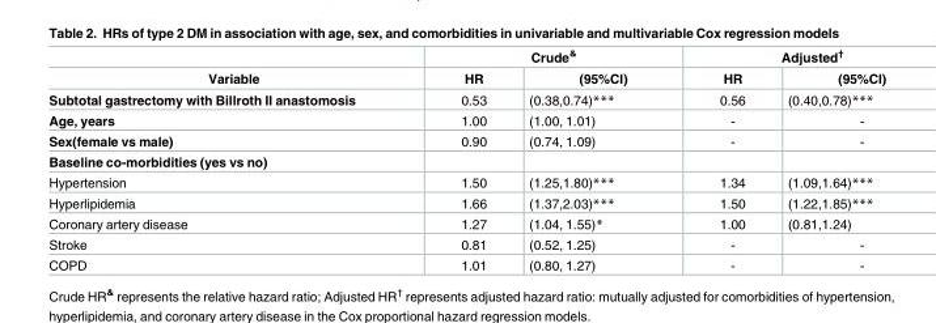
<table><thead><tr><td rowspan="2">Variable</td><td colspan="2">Crude<sup>&amp;</sup></td><td colspan="2">Adjusted<sup>†</sup></td></tr><tr><td>HR</td><td>(95%CI)</td><td>HR</td><td>(95%CI)</td></tr></thead><tbody><tr><td>Subtotal gastrectomy with Billroth II anastomosis</td><td>0.53</td><td>(0.38,0.74)***</td><td>0.56</td><td>(0.40,0.78)***</td></tr><tr><td>Age, years</td><td>1.00</td><td>(1.00, 1.01)</td><td>-</td><td>-</td></tr><tr><td>Sex(female vs male)</td><td>0.90</td><td>(0.74, 1.09)</td><td>-</td><td>-</td></tr><tr><td colspan="5">Baseline co-morbidities (yes vs no)</td></tr><tr><td>Hypertension</td><td>1.50</td><td>(1.25,1.80)***</td><td>1.34</td><td>(1.09,1.64)***</td></tr><tr><td>Hyperlipidemia</td><td>1.66</td><td>(1.37,2.03)***</td><td>1.50</td><td>(1.22,1.85)***</td></tr><tr><td>Coronary artery disease</td><td>1.27</td><td>(1.04, 1.55)*</td><td>1.00</td><td>(0.81,1.24)</td></tr><tr><td>Stroke</td><td>0.81</td><td>(0.52, 1.25)</td><td>-</td><td>-</td></tr><tr><td>COPD</td><td>1.01</td><td>(0.80, 1.27)</td><td>-</td><td>-</td></tr></tbody></table>